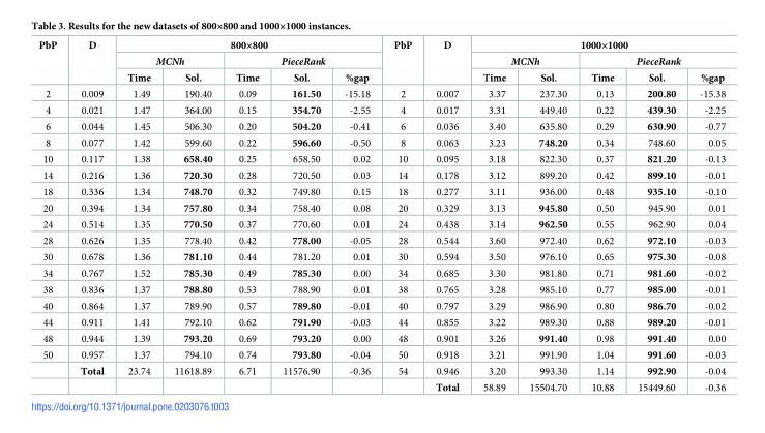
<table><thead><tr><td rowspan="3">PbP</td><td rowspan="3">D</td><td colspan="5">800×800</td><td rowspan="3">PbP</td><td rowspan="3">D</td><td colspan="5">1000×1000</td></tr><tr><td colspan="2">MCNh</td><td colspan="3">PieceRank</td><td colspan="2">MCNh</td><td colspan="3">PieceRank</td></tr><tr><td>Time</td><td>Sol.</td><td>Time</td><td>Sol.</td><td>%gap</td><td>Time</td><td>Sol.</td><td>Time</td><td>Sol.</td><td>%gap</td></tr></thead><tbody><tr><td>2</td><td>0.009</td><td>1.49</td><td>190.40</td><td>0.09</td><td>161.50</td><td>-15.18</td><td>2</td><td>0.007</td><td>3.37</td><td>237.30</td><td>0.13</td><td>200.80</td><td>-15.38</td></tr><tr><td>4</td><td>0.021</td><td>1.47</td><td>364.00</td><td>0.15</td><td>354.70</td><td>-2.55</td><td>4</td><td>0.017</td><td>3.31</td><td>449.40</td><td>0.22</td><td>439.30</td><td>-2.25</td></tr><tr><td>6</td><td>0.044</td><td>1.45</td><td>506.30</td><td>0.20</td><td>504.20</td><td>-0.41</td><td>6</td><td>0.036</td><td>3.40</td><td>635.80</td><td>0.29</td><td>630.90</td><td>-0.77</td></tr><tr><td>8</td><td>0.077</td><td>1.42</td><td>599.60</td><td>0.22</td><td>596.60</td><td>-0.50</td><td>8</td><td>0.063</td><td>3.23</td><td>748.20</td><td>0.34</td><td>748.60</td><td>0.05</td></tr><tr><td>10</td><td>0.117</td><td>1.38</td><td>658.40</td><td>0.25</td><td>658.50</td><td>0.02</td><td>10</td><td>0.095</td><td>3.18</td><td>822.30</td><td>0.37</td><td>821.20</td><td>-0.13</td></tr><tr><td>14</td><td>0.216</td><td>1.36</td><td>720.30</td><td>0.28</td><td>720.50</td><td>0.03</td><td>14</td><td>0.178</td><td>3.12</td><td>899.20</td><td>0.42</td><td>899.10</td><td>-0.01</td></tr><tr><td>18</td><td>0.336</td><td>1.34</td><td>748.70</td><td>0.32</td><td>749.80</td><td>0.15</td><td>18</td><td>0.277</td><td>3.11</td><td>936.00</td><td>0.48</td><td>935.10</td><td>-0.10</td></tr><tr><td>20</td><td>0.394</td><td>1.34</td><td>757.80</td><td>0.34</td><td>758.40</td><td>0.08</td><td>20</td><td>0.329</td><td>3.13</td><td>945.80</td><td>0.50</td><td>945.90</td><td>0.01</td></tr><tr><td>24</td><td>0.514</td><td>1.35</td><td>770.50</td><td>0.37</td><td>770.60</td><td>0.01</td><td>24</td><td>0.438</td><td>3.14</td><td>962.50</td><td>0.55</td><td>962.90</td><td>0.04</td></tr><tr><td>28</td><td>0.626</td><td>1.35</td><td>778.40</td><td>0.42</td><td>778.00</td><td>-0.05</td><td>28</td><td>0.544</td><td>3.60</td><td>972.40</td><td>0.62</td><td>972.10</td><td>-0.03</td></tr><tr><td>30</td><td>0.678</td><td>1.36</td><td>781.10</td><td>0.44</td><td>781.20</td><td>0.01</td><td>30</td><td>0.594</td><td>3.50</td><td>976.10</td><td>0.65</td><td>975.30</td><td>-0.08</td></tr><tr><td>34</td><td>0.767</td><td>1.52</td><td>785.30</td><td>0.49</td><td>785.30</td><td>0.00</td><td>34</td><td>0.685</td><td>3.30</td><td>981.80</td><td>0.71</td><td>981.60</td><td>-0.02</td></tr><tr><td>38</td><td>0.836</td><td>1.37</td><td>788.80</td><td>0.53</td><td>788.90</td><td>0.01</td><td>38</td><td>0.765</td><td>3.28</td><td>985.10</td><td>0.77</td><td>985.00</td><td>-0.01</td></tr><tr><td>40</td><td>0.864</td><td>1.37</td><td>789.90</td><td>0.57</td><td>789.80</td><td>-0.01</td><td>40</td><td>0.797</td><td>3.29</td><td>986.90</td><td>0.80</td><td>986.70</td><td>-0.02</td></tr><tr><td>44</td><td>0.911</td><td>1.41</td><td>792.10</td><td>0.62</td><td>791.90</td><td>-0.03</td><td>44</td><td>0.855</td><td>3.22</td><td>989.30</td><td>0.88</td><td>989.20</td><td>-0.01</td></tr><tr><td>48</td><td>0.944</td><td>1.39</td><td>793.20</td><td>0.69</td><td>793.20</td><td>0.00</td><td>48</td><td>0.901</td><td>3.26</td><td>991.40</td><td>0.98</td><td>991.40</td><td>0.00</td></tr><tr><td rowspan="3">50</td><td>0.957</td><td>1.37</td><td>794.10</td><td>0.74</td><td>793.80</td><td>-0.04</td><td>50</td><td>0.918</td><td>3.21</td><td>991.90</td><td>1.04</td><td>991.60</td><td>-0.03</td></tr><tr><td>Total</td><td>23.74</td><td>11618.89</td><td>6.71</td><td>11576.90</td><td>-0.36</td><td>54</td><td>0.946</td><td>3.20</td><td>993.30</td><td>1.14</td><td>992.90</td><td>-0.04</td></tr><tr><td></td><td></td><td></td><td></td><td></td><td></td><td></td><td>Total</td><td>58.89</td><td>15504.70</td><td>10.88</td><td>15449.60</td><td>-0.36</td></tr></tbody></table>